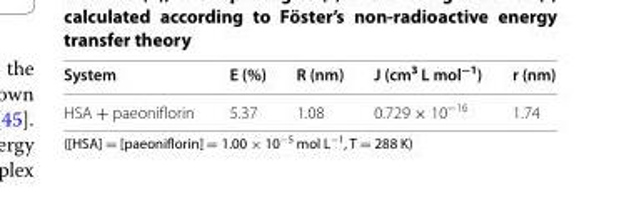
<table><thead><tr><td>System</td><td>E (%)</td><td>R (nm)</td><td>J (cm<sup>3</sup> L mol<sup>−1</sup>)</td><td>r (nm)</td></tr></thead><tbody><tr><td>HSA + paeoniflorin</td><td>5.37</td><td>1.08</td><td>0.729 × 10<sup>−16</sup></td><td>1.74</td></tr></tbody></table>